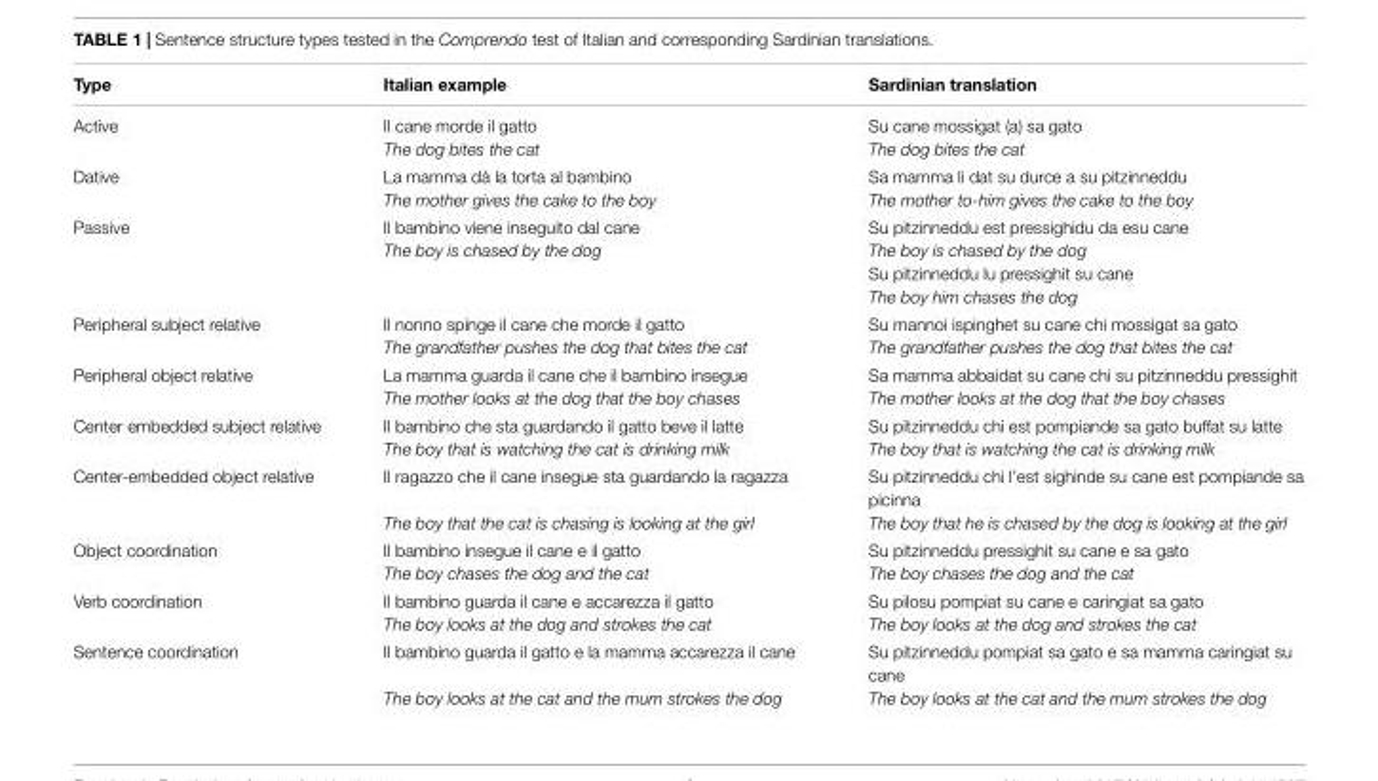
<table><thead><tr><td>Type</td><td>Italian example</td><td>Sardinian translation</td></tr></thead><tbody><tr><td rowspan="2">Active</td><td>Il cane morde il gatto</td><td>Su cane mossigat (a) sa gato</td></tr><tr><td>The dog bites the cat</td><td>The dog bites the cat</td></tr><tr><td rowspan="2">Dative</td><td>La mamma dà la torta al bambino</td><td>Sa mamma li dat su durce a su pitzinneddu</td></tr><tr><td>The mother gives the cake to the boy</td><td>The mother to-him gives the cake to the boy</td></tr><tr><td rowspan="4">Passive</td><td>Il bambino viene inseguito dal cane</td><td>Su pitzinneddu est pressighidu da esu cane</td></tr><tr><td>The boy is chased by the dog</td><td>The boy is chased by the dog</td></tr><tr><td></td><td>Su pitzinneddu lu pressighit su cane</td></tr><tr><td></td><td>The boy him chases the dog</td></tr><tr><td rowspan="2">Peripheral subject relative</td><td>Il nonno spinge il cane che morde il gatto</td><td>Su mannoi ispinghet su cane chi mossigat sa gato</td></tr><tr><td>The grandfather pushes the dog that bites the cat</td><td>The grandfather pushes the dog that bites the cat</td></tr><tr><td rowspan="2">Peripheral object relative</td><td>La mamma guarda il cane che il bambino insegue</td><td>Sa mamma abbaidat su cane chi su pitzinneddu pressighit</td></tr><tr><td>The mother looks at the dog that the boy chases</td><td>The mother looks at the dog that the boy chases</td></tr><tr><td rowspan="2">Center embedded subject relative</td><td>Il bambino che sta guardando il gatto beve il latte</td><td>Su pitzinneddu chi est pompiande sa gato buffat su latte</td></tr><tr><td>The boy that is watching the cat is drinking milk</td><td>The boy that is watching the cat is drinking milk</td></tr><tr><td rowspan="2">Center-embedded object relative</td><td>Il ragazzo che il cane insegue sta guardando la ragazza</td><td>Su pitzinneddu chi l’est sighinde su cane est pompiande sa picinna</td></tr><tr><td>The boy that the cat is chasing is looking at the girl</td><td>The boy that he is chased by the dog is looking at the girl</td></tr><tr><td rowspan="2">Object coordination</td><td>Il bambino insegue il cane e il gatto</td><td>Su pitzinneddu pressighit su cane e sa gato</td></tr><tr><td>The boy chases the dog and the cat</td><td>The boy chases the dog and the cat</td></tr><tr><td rowspan="2">Verb coordination</td><td>Il bambino guarda il cane e accarezza il gatto</td><td>Su pilosu pompiat su cane e caringiat sa gato</td></tr><tr><td>The boy looks at the dog and strokes the cat</td><td>The boy looks at the dog and strokes the cat</td></tr><tr><td rowspan="2">Sentence coordination</td><td>Il bambino guarda il gatto e la mamma accarezza il cane</td><td>Su pitzinneddu pompiat sa gato e sa mamma caringiat su cane</td></tr><tr><td>The boy looks at the cat and the mum strokes the dog</td><td>The boy looks at the cat and the mum strokes the dog</td></tr></tbody></table>